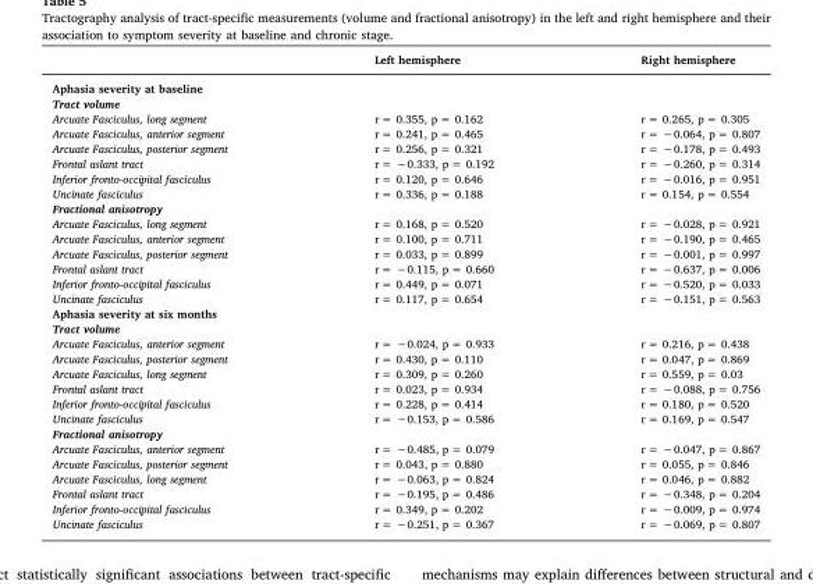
<table><thead><tr><td></td><td>Left hemisphere</td><td>Right hemisphere</td></tr></thead><tbody><tr><td colspan="3">Aphasia severity at baseline</td></tr><tr><td colspan="3">Tract volume</td></tr><tr><td>Arcuate Fasciculus, long segment</td><td>r = 0.355, p = 0.162</td><td>r = 0.265, p = 0.305</td></tr><tr><td>Arcuate Fasciculus, anterior segment</td><td>r = 0.241, p = 0.465</td><td>r = −0.064, p = 0.807</td></tr><tr><td>Arcuate Fasciculus, posterior segment</td><td>r = 0.256, p = 0.321</td><td>r = −0.178, p = 0.493</td></tr><tr><td>Frontal aslant tract</td><td>r = −0.333, p = 0.192</td><td>r = −0.260, p = 0.314</td></tr><tr><td>Inferior fronto-occipital fasciculus</td><td>r = 0.120, p = 0.646</td><td>r = −0.016, p = 0.951</td></tr><tr><td>Uncinate fasciculus</td><td>r = 0.336, p = 0.188</td><td>r = 0.154, p = 0.554</td></tr><tr><td colspan="3">Fractional anisotropy</td></tr><tr><td>Arcuate Fasciculus, long segment</td><td>r = 0.168, p = 0.520</td><td>r = −0.028, p = 0.921</td></tr><tr><td>Arcuate Fasciculus, anterior segment</td><td>r = 0.100, p = 0.711</td><td>r = −0.190, p = 0.465</td></tr><tr><td>Arcuate Fasciculus, posterior segment</td><td>r = 0.033, p = 0.899</td><td>r = −0.001, p = 0.997</td></tr><tr><td>Frontal aslant tract</td><td>r = −0.115, p = 0.660</td><td>r = −0.637, p = 0.006</td></tr><tr><td>Inferior fronto-occipital fasciculus</td><td>r = 0.449, p = 0.071</td><td>r = −0.520, p = 0.033</td></tr><tr><td>Uncinate fasciculus</td><td>r = 0.117, p = 0.654</td><td>r = −0.151, p = 0.563</td></tr><tr><td colspan="3">Aphasia severity at six months</td></tr><tr><td colspan="3">Tract volume</td></tr><tr><td>Arcuate Fasciculus, anterior segment</td><td>r = −0.024, p = 0.933</td><td>r = 0.216, p = 0.438</td></tr><tr><td>Arcuate Fasciculus, posterior segment</td><td>r = 0.430, p = 0.110</td><td>r = 0.047, p = 0.869</td></tr><tr><td>Arcuate Fasciculus, long segment</td><td>r = 0.309, p = 0.260</td><td>r = 0.559, p = 0.03</td></tr><tr><td>Frontal aslant tract</td><td>r = 0.023, p = 0.934</td><td>r = −0.088, p = 0.756</td></tr><tr><td>Inferior fronto-occipital fasciculus</td><td>r = 0.228, p = 0.414</td><td>r = 0.180, p = 0.520</td></tr><tr><td>Uncinate fasciculus</td><td>r = −0.153, p = 0.586</td><td>r = 0.169, p = 0.547</td></tr><tr><td colspan="3">Fractional anisotropy</td></tr><tr><td>Arcuate Fasciculus, anterior segment</td><td>r = −0.485, p = 0.079</td><td>r = −0.047, p = 0.867</td></tr><tr><td>Arcuate Fasciculus, posterior segment</td><td>r = 0.043, p = 0.880</td><td>r = 0.055, p = 0.846</td></tr><tr><td>Arcuate Fasciculus, long segment</td><td>r = −0.063, p = 0.824</td><td>r = 0.046, p = 0.882</td></tr><tr><td>Frontal aslant tract</td><td>r = −0.195, p = 0.486</td><td>r = −0.348, p = 0.204</td></tr><tr><td>Inferior fronto-occipital fasciculus</td><td>r = 0.349, p = 0.202</td><td>r = −0.009, p = 0.974</td></tr><tr><td>Uncinate fasciculus</td><td>r = −0.251, p = 0.367</td><td>r = −0.069, p = 0.807</td></tr></tbody></table>